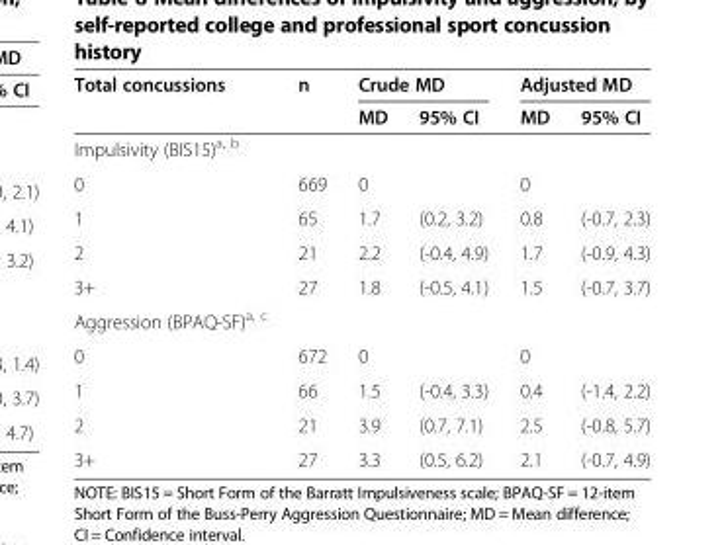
<table><thead><tr><td rowspan="2">Total concussions</td><td rowspan="2">n</td><td colspan="2">Crude MD</td><td colspan="2">Adjusted MD</td></tr><tr><td>MD</td><td>95% CI</td><td>MD</td><td>95% CI</td></tr></thead><tbody><tr><td colspan="6">Impulsivity (BIS15)<sup>a, b</sup></td></tr><tr><td>0</td><td>669</td><td>0</td><td></td><td>0</td><td></td></tr><tr><td>1</td><td>65</td><td>1.7</td><td>(0.2, 3.2)</td><td>0.8</td><td>(-0.7, 2.3)</td></tr><tr><td>2</td><td>21</td><td>2.2</td><td>(-0.4, 4.9)</td><td>1.7</td><td>(-0.9, 4.3)</td></tr><tr><td>3+</td><td>27</td><td>1.8</td><td>(-0.5, 4.1)</td><td>1.5</td><td>(-0.7, 3.7)</td></tr><tr><td colspan="6">Aggression (BPAQ-SF)<sup>a, c</sup></td></tr><tr><td>0</td><td>672</td><td>0</td><td></td><td>0</td><td></td></tr><tr><td>1</td><td>66</td><td>1.5</td><td>(-0.4, 3.3)</td><td>0.4</td><td>(-1.4, 2.2)</td></tr><tr><td>2</td><td>21</td><td>3.9</td><td>(0.7, 7.1)</td><td>2.5</td><td>(-0.8, 5.7)</td></tr><tr><td>3+</td><td>27</td><td>3.3</td><td>(0.5, 6.2)</td><td>2.1</td><td>(-0.7, 4.9)</td></tr></tbody></table>